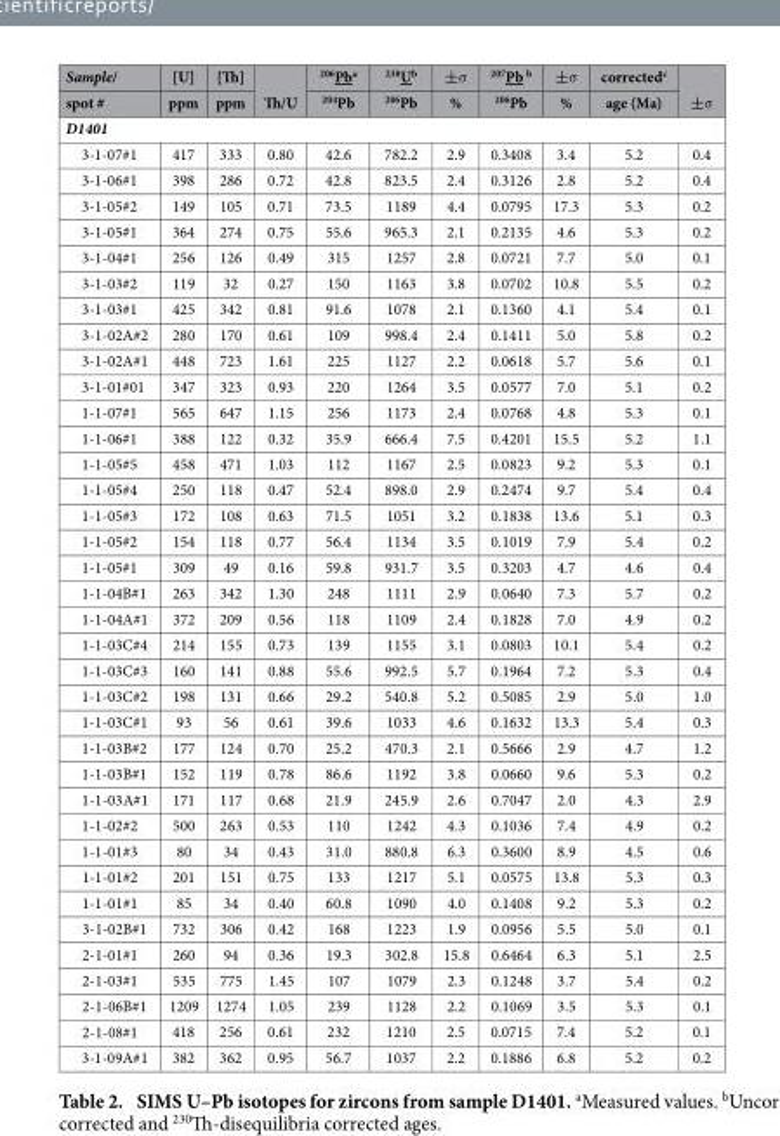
<table><thead><tr><td rowspan="2">Sample/ spot #</td><td rowspan="2">[U] ppm</td><td rowspan="2">[Th] ppm</td><td rowspan="2">Th/U</td><td rowspan="2"><sup>206</sup>Pb<sup>a 204</sup>Pb</td><td rowspan="2"><sup>238</sup>U<sup>b 206</sup>Pb</td><td rowspan="2">±σ %</td><td rowspan="2"><sup>207</sup>Pb b <sup>206</sup>Pb</td><td rowspan="2">±σ %</td><td rowspan="2">corrected<sup>c</sup> age (Ma)</td><td rowspan="2">±σ</td></tr><tr></tr></thead><tbody><tr><td colspan="11">D1401</td></tr><tr><td>3-1-07#1</td><td>417</td><td>333</td><td>0.80</td><td>42.6</td><td>782.2</td><td>2.9</td><td>0.3408</td><td>3.4</td><td>5.2</td><td>0.4</td></tr><tr><td>3-1-06#1</td><td>398</td><td>286</td><td>0.72</td><td>42.8</td><td>823.5</td><td>2.4</td><td>0.3126</td><td>2.8</td><td>5.2</td><td>0.4</td></tr><tr><td>3-1-05#2</td><td>149</td><td>105</td><td>0.71</td><td>73.5</td><td>1189</td><td>4.4</td><td>0.0795</td><td>17.3</td><td>5.3</td><td>0.2</td></tr><tr><td>3-1-05#1</td><td>364</td><td>274</td><td>0.75</td><td>55.6</td><td>965.3</td><td>2.1</td><td>0.2135</td><td>4.6</td><td>5.3</td><td>0.2</td></tr><tr><td>3-1-04#1</td><td>256</td><td>126</td><td>0.49</td><td>315</td><td>1257</td><td>2.8</td><td>0.0721</td><td>7.7</td><td>5.0</td><td>0.1</td></tr><tr><td>3-1-03#2</td><td>119</td><td>32</td><td>0.27</td><td>150</td><td>1163</td><td>3.8</td><td>0.0702</td><td>10.8</td><td>5.5</td><td>0.2</td></tr><tr><td>3-1-03#1</td><td>425</td><td>342</td><td>0.81</td><td>91.6</td><td>1078</td><td>2.1</td><td>0.1360</td><td>4.1</td><td>5.4</td><td>0.1</td></tr><tr><td>3-1-02A#2</td><td>280</td><td>170</td><td>0.61</td><td>109</td><td>998.4</td><td>2.4</td><td>0.1411</td><td>5.0</td><td>5.8</td><td>0.2</td></tr><tr><td>3-1-02A#1</td><td>448</td><td>723</td><td>1.61</td><td>225</td><td>1127</td><td>2.2</td><td>0.0618</td><td>5.7</td><td>5.6</td><td>0.1</td></tr><tr><td>3-1-01#01</td><td>347</td><td>323</td><td>0.93</td><td>220</td><td>1264</td><td>3.5</td><td>0.0577</td><td>7.0</td><td>5.1</td><td>0.2</td></tr><tr><td>1-1-07#1</td><td>565</td><td>647</td><td>1.15</td><td>256</td><td>1173</td><td>2.4</td><td>0.0768</td><td>4.8</td><td>5.3</td><td>0.1</td></tr><tr><td>1-1-06#1</td><td>388</td><td>122</td><td>0.32</td><td>35.9</td><td>666.4</td><td>7.5</td><td>0.4201</td><td>15.5</td><td>5.2</td><td>1.1</td></tr><tr><td>1-1-05#5</td><td>458</td><td>471</td><td>1.03</td><td>112</td><td>1167</td><td>2.5</td><td>0.0823</td><td>9.2</td><td>5.3</td><td>0.1</td></tr><tr><td>1-1-05#4</td><td>250</td><td>118</td><td>0.47</td><td>52.4</td><td>898.0</td><td>2.9</td><td>0.2474</td><td>9.7</td><td>5.4</td><td>0.4</td></tr><tr><td>1-1-05#3</td><td>172</td><td>108</td><td>0.63</td><td>71.5</td><td>1051</td><td>3.2</td><td>0.1838</td><td>13.6</td><td>5.1</td><td>0.3</td></tr><tr><td>1-1-05#2</td><td>154</td><td>118</td><td>0.77</td><td>56.4</td><td>1134</td><td>3.5</td><td>0.1019</td><td>7.9</td><td>5.4</td><td>0.2</td></tr><tr><td>1-1-05#1</td><td>309</td><td>49</td><td>0.16</td><td>59.8</td><td>931.7</td><td>3.5</td><td>0.3203</td><td>4.7</td><td>4.6</td><td>0.4</td></tr><tr><td>1-1-04B#1</td><td>263</td><td>342</td><td>1.30</td><td>248</td><td>1111</td><td>2.9</td><td>0.0640</td><td>7.3</td><td>5.7</td><td>0.2</td></tr><tr><td>1-1-04A#1</td><td>372</td><td>209</td><td>0.56</td><td>118</td><td>1109</td><td>2.4</td><td>0.1828</td><td>7.0</td><td>4.9</td><td>0.2</td></tr><tr><td>1-1-03C#4</td><td>214</td><td>155</td><td>0.73</td><td>139</td><td>1155</td><td>3.1</td><td>0.0803</td><td>10.1</td><td>5.4</td><td>0.2</td></tr><tr><td>1-1-03C#3</td><td>160</td><td>141</td><td>0.88</td><td>55.6</td><td>992.5</td><td>5.7</td><td>0.1964</td><td>7.2</td><td>5.3</td><td>0.4</td></tr><tr><td>1-1-03C#2</td><td>198</td><td>131</td><td>0.66</td><td>29.2</td><td>540.8</td><td>5.2</td><td>0.5085</td><td>2.9</td><td>5.0</td><td>1.0</td></tr><tr><td>1-1-03C#1</td><td>93</td><td>56</td><td>0.61</td><td>39.6</td><td>1033</td><td>4.6</td><td>0.1632</td><td>13.3</td><td>5.4</td><td>0.3</td></tr><tr><td>1-1-03B#2</td><td>177</td><td>124</td><td>0.70</td><td>25.2</td><td>470.3</td><td>2.1</td><td>0.5666</td><td>2.9</td><td>4.7</td><td>1.2</td></tr><tr><td>1-1-03B#1</td><td>152</td><td>119</td><td>0.78</td><td>86.6</td><td>1192</td><td>3.8</td><td>0.0660</td><td>9.6</td><td>5.3</td><td>0.2</td></tr><tr><td>1-1-03A#1</td><td>171</td><td>117</td><td>0.68</td><td>21.9</td><td>245.9</td><td>2.6</td><td>0.7047</td><td>2.0</td><td>4.3</td><td>2.9</td></tr><tr><td>1-1-02#2</td><td>500</td><td>263</td><td>0.53</td><td>110</td><td>1242</td><td>4.3</td><td>0.1036</td><td>7.4</td><td>4.9</td><td>0.2</td></tr><tr><td>1-1-01#3</td><td>80</td><td>34</td><td>0.43</td><td>31.0</td><td>880.8</td><td>6.3</td><td>0.3600</td><td>8.9</td><td>4.5</td><td>0.6</td></tr><tr><td>1-1-01#2</td><td>201</td><td>151</td><td>0.75</td><td>133</td><td>1217</td><td>5.1</td><td>0.0575</td><td>13.8</td><td>5.3</td><td>0.3</td></tr><tr><td>1-1-01#1</td><td>85</td><td>34</td><td>0.40</td><td>60.8</td><td>1090</td><td>4.0</td><td>0.1408</td><td>9.2</td><td>5.3</td><td>0.2</td></tr><tr><td>3-1-02B#1</td><td>732</td><td>306</td><td>0.42</td><td>168</td><td>1223</td><td>1.9</td><td>0.0956</td><td>5.5</td><td>5.0</td><td>0.1</td></tr><tr><td>2-1-01#1</td><td>260</td><td>94</td><td>0.36</td><td>19.3</td><td>302.8</td><td>15.8</td><td>0.6464</td><td>6.3</td><td>5.1</td><td>2.5</td></tr><tr><td>2-1-03#1</td><td>535</td><td>775</td><td>1.45</td><td>107</td><td>1079</td><td>2.3</td><td>0.1248</td><td>3.7</td><td>5.4</td><td>0.2</td></tr><tr><td>2-1-06B#1</td><td>1209</td><td>1274</td><td>1.05</td><td>239</td><td>1128</td><td>2.2</td><td>0.1069</td><td>3.5</td><td>5.3</td><td>0.1</td></tr><tr><td>2-1-08#1</td><td>418</td><td>256</td><td>0.61</td><td>232</td><td>1210</td><td>2.5</td><td>0.0715</td><td>7.4</td><td>5.2</td><td>0.1</td></tr><tr><td>3-1-09A#1</td><td>382</td><td>362</td><td>0.95</td><td>56.7</td><td>1037</td><td>2.2</td><td>0.1886</td><td>6.8</td><td>5.2</td><td>0.2</td></tr></tbody></table>